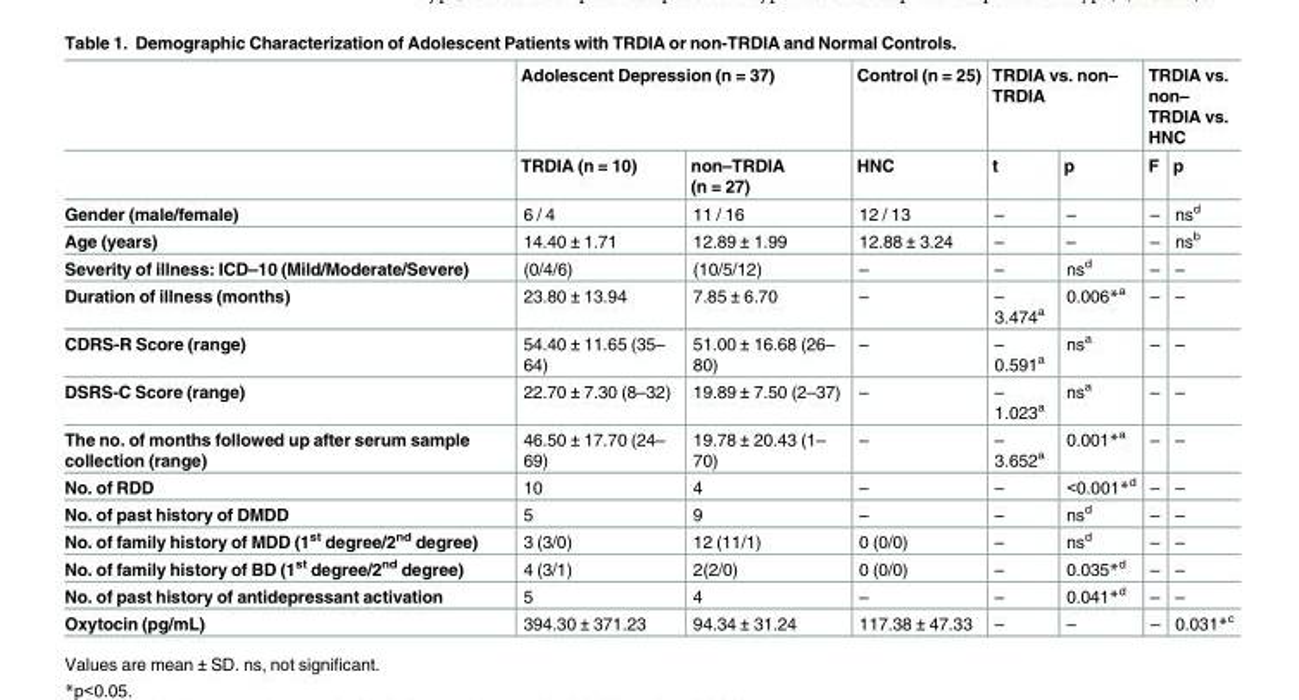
<table><thead><tr><td rowspan="2"></td><td colspan="2">Adolescent Depression (n = 37)</td><td rowspan="2">Control (n = 25) HNC</td><td colspan="2">TRDIA vs. non– TRDIA</td><td colspan="2">TRDIA vs. non– TRDIA vs. HNC</td></tr><tr><td>TRDIA (n = 10)</td><td>non–TRDIA (n = 27)</td><td>t</td><td>p</td><td>F</td><td>p</td></tr></thead><tbody><tr><td>Gender (male/female)</td><td>6 / 4</td><td>11 / 16</td><td>12 / 13</td><td>–</td><td>–</td><td>–</td><td>ns<sup>d</sup></td></tr><tr><td>Age (years)</td><td>14.40 ± 1.71</td><td>12.89 ± 1.99</td><td>12.88 ± 3.24</td><td>–</td><td>–</td><td>–</td><td>ns<sup>b</sup></td></tr><tr><td>Severity of illness: ICD–10 (Mild/Moderate/Severe)</td><td>(0/4/6)</td><td>(10/5/12)</td><td>–</td><td>–</td><td>ns<sup>d</sup></td><td>–</td><td>–</td></tr><tr><td>Duration of illness (months)</td><td>23.80 ± 13.94</td><td>7.85 ± 6.70</td><td>–</td><td>– 3.474<sup>a</sup></td><td>0.006*<sup>a</sup></td><td>–</td><td>–</td></tr><tr><td>CDRS-R Score (range)</td><td>54.40 ± 11.65 (35– 64)</td><td>51.00 ± 16.68 (26– 80)</td><td>–</td><td>– 0.591<sup>a</sup></td><td>ns<sup>a</sup></td><td>–</td><td>–</td></tr><tr><td>DSRS-C Score (range)</td><td>22.70 ± 7.30 (8–32)</td><td>19.89 ± 7.50 (2–37)</td><td>–</td><td>– 1.023<sup>a</sup></td><td>ns<sup>a</sup></td><td>–</td><td>–</td></tr><tr><td>The no. of months followed up after serum sample collection (range)</td><td>46.50 ± 17.70 (24– 69)</td><td>19.78 ± 20.43 (1– 70)</td><td>–</td><td>– 3.652<sup>a</sup></td><td>0.001*<sup>a</sup></td><td>–</td><td>–</td></tr><tr><td>No. of RDD</td><td>10</td><td>4</td><td>–</td><td>–</td><td>&lt;0.001*<sup>d</sup></td><td>–</td><td>–</td></tr><tr><td>No. of past history of DMDD</td><td>5</td><td>9</td><td>–</td><td>–</td><td>ns<sup>d</sup></td><td>–</td><td>–</td></tr><tr><td>No. of family history of MDD (1<sup>st</sup> degree/2<sup>nd</sup> degree)</td><td>3 (3/0)</td><td>12 (11/1)</td><td>0 (0/0)</td><td>–</td><td>ns<sup>d</sup></td><td>–</td><td>–</td></tr><tr><td>No. of family history of BD (1<sup>st</sup> degree/2<sup>nd</sup> degree)</td><td>4 (3/1)</td><td>2(2/0)</td><td>0 (0/0)</td><td>–</td><td>0.035*<sup>d</sup></td><td>–</td><td>–</td></tr><tr><td>No. of past history of antidepressant activation</td><td>5</td><td>4</td><td>–</td><td>–</td><td>0.041*<sup>d</sup></td><td>–</td><td>–</td></tr><tr><td>Oxytocin (pg/mL)</td><td>394.30 ± 371.23</td><td>94.34 ± 31.24</td><td>117.38 ± 47.33</td><td>–</td><td>–</td><td>–</td><td>0.031*<sup>c</sup></td></tr></tbody></table>